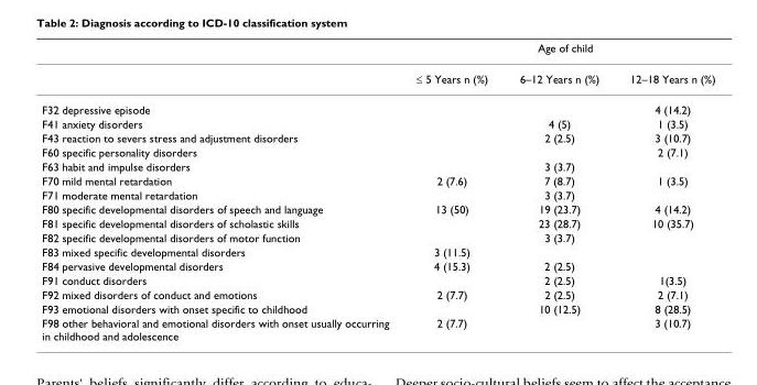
<table><thead><tr><td rowspan="2"></td><td colspan="3">Age of child</td></tr><tr><td>≤ 5 Years n (%)</td><td>6–12 Years n (%)</td><td>12–18 Years n (%)</td></tr></thead><tbody><tr><td>F32 depressive episode</td><td></td><td></td><td>4 (14.2)</td></tr><tr><td>F41 anxiety disorders</td><td></td><td>4 (5)</td><td>1 (3.5)</td></tr><tr><td>F43 reaction to severs stress and adjustment disorders</td><td></td><td>2 (2.5)</td><td>3 (10.7)</td></tr><tr><td>F60 specific personality disorders</td><td></td><td></td><td>2 (7.1)</td></tr><tr><td>F63 habit and impulse disorders</td><td></td><td>3 (3.7)</td><td></td></tr><tr><td>F70 mild mental retardation</td><td>2 (7.6)</td><td>7 (8.7)</td><td>1 (3.5)</td></tr><tr><td>F71 moderate mental retardation</td><td></td><td>3 (3.7)</td><td></td></tr><tr><td>F80 specific developmental disorders of speech and language</td><td>13 (50)</td><td>19 (23.7)</td><td>4 (14.2)</td></tr><tr><td>F81 specific developmental disorders of scholastic skills</td><td></td><td>23 (28.7)</td><td>10 (35.7)</td></tr><tr><td>F82 specific developmental disorders of motor function</td><td></td><td>3 (3.7)</td><td></td></tr><tr><td>F83 mixed specific developmental disorders</td><td>3 (11.5)</td><td></td><td></td></tr><tr><td>F84 pervasive developmental disorders</td><td>4 (15.3)</td><td>2 (2.5)</td><td></td></tr><tr><td>F91 conduct disorders</td><td></td><td>2 (2.5)</td><td>1(3.5)</td></tr><tr><td>F92 mixed disorders of conduct and emotions</td><td>2 (7.7)</td><td>2 (2.5)</td><td>2 (7.1)</td></tr><tr><td>F93 emotional disorders with onset specific to childhood</td><td></td><td>10 (12.5)</td><td>8 (28.5)</td></tr><tr><td>F98 other behavioral and emotional disorders with onset usually occurring in childhood and adolescence</td><td>2 (7.7)</td><td></td><td>3 (10.7)</td></tr></tbody></table>